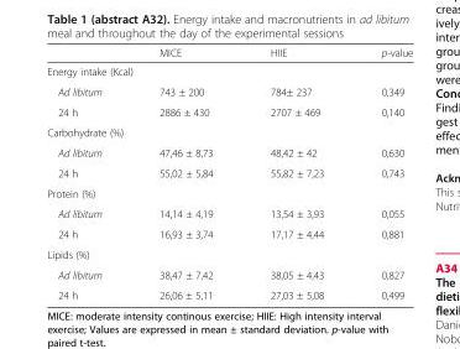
<table><thead><tr><td></td><td>MICE</td><td>HIIE</td><td>p-value</td></tr></thead><tbody><tr><td colspan="4">Energy intake (Kcal)</td></tr><tr><td>Ad libitum</td><td>743 ± 200</td><td>784± 237</td><td>0,349</td></tr><tr><td>24 h</td><td>2886 ± 430</td><td>2707 ± 469</td><td>0,140</td></tr><tr><td colspan="4">Carbohydrate (%)</td></tr><tr><td>Ad libitum</td><td>47,46 ± 8,73</td><td>48,42 ± 42</td><td>0,630</td></tr><tr><td>24 h</td><td>55,02 ± 5,84</td><td>55,82 ± 7,23</td><td>0,743</td></tr><tr><td colspan="4">Protein (%)</td></tr><tr><td>Ad libitum</td><td>14,14 ± 4,19</td><td>13,54 ± 3,93</td><td>0,055</td></tr><tr><td>24 h</td><td>16,93 ± 3,74</td><td>17,17 ± 4,44</td><td>0,881</td></tr><tr><td colspan="4">Lipids (%)</td></tr><tr><td>Ad libitum</td><td>38,47 ± 7,42</td><td>38,05 ± 4,43</td><td>0,827</td></tr><tr><td>24 h</td><td>26,06 ± 5,11</td><td>27,03 ± 5,08</td><td>0,499</td></tr></tbody></table>